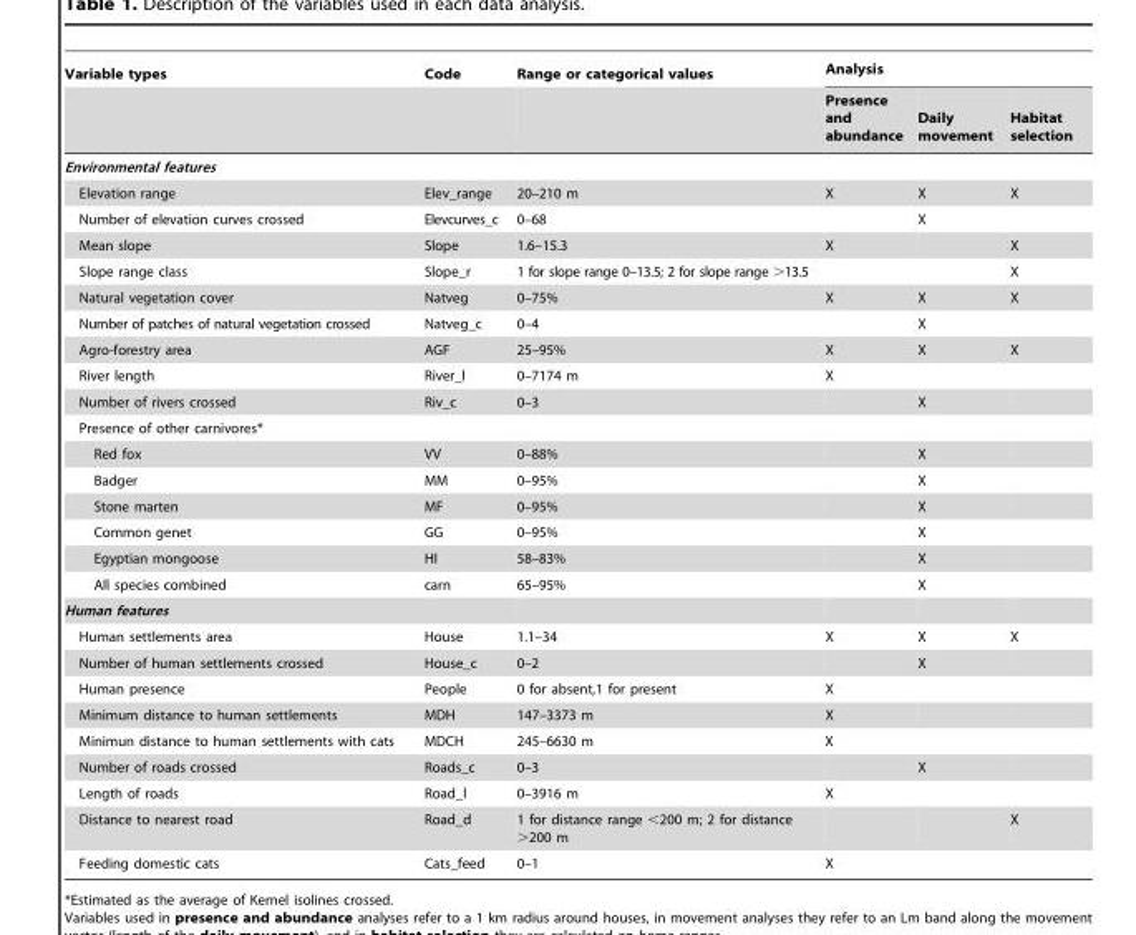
<table><thead><tr><td rowspan="2">Variable types</td><td rowspan="2">Code</td><td rowspan="2">Range or categorical values</td><td colspan="3">Analysis</td></tr><tr><td>Presence and abundance</td><td>Daily movement</td><td>Habitat selection</td></tr></thead><tbody><tr><td colspan="6">Environmental features</td></tr><tr><td>Elevation range</td><td>Elev_range</td><td>20–210 m</td><td>X</td><td>X</td><td>X</td></tr><tr><td>Number of elevation curves crossed</td><td>Elevcurves_c</td><td>0–68</td><td></td><td>X</td><td></td></tr><tr><td>Mean slope</td><td>Slope</td><td>1.6–15.3</td><td>X</td><td></td><td>X</td></tr><tr><td>Slope range class</td><td>Slope_r</td><td>1 for slope range 0–13.5; 2 for slope range &gt;13.5</td><td></td><td></td><td>X</td></tr><tr><td>Natural vegetation cover</td><td>Natveg</td><td>0–75%</td><td>X</td><td>X</td><td>X</td></tr><tr><td>Number of patches of natural vegetation crossed</td><td>Natveg_c</td><td>0–4</td><td></td><td>X</td><td></td></tr><tr><td>Agro-forestry area</td><td>AGF</td><td>25–95%</td><td>X</td><td>X</td><td>X</td></tr><tr><td>River length</td><td>River_l</td><td>0–7174 m</td><td>X</td><td></td><td></td></tr><tr><td>Number of rivers crossed</td><td>Riv_c</td><td>0–3</td><td></td><td>X</td><td></td></tr><tr><td colspan="6">Presence of other carnivores*</td></tr><tr><td>Red fox</td><td>VV</td><td>0–88%</td><td></td><td>X</td><td></td></tr><tr><td>Badger</td><td>MM</td><td>0–95%</td><td></td><td>X</td><td></td></tr><tr><td>Stone marten</td><td>MF</td><td>0–95%</td><td></td><td>X</td><td></td></tr><tr><td>Common genet</td><td>GG</td><td>0–95%</td><td></td><td>X</td><td></td></tr><tr><td>Egyptian mongoose</td><td>HI</td><td>58–83%</td><td></td><td>X</td><td></td></tr><tr><td>All species combined</td><td>carn</td><td>65–95%</td><td></td><td>X</td><td></td></tr><tr><td colspan="6">Human features</td></tr><tr><td>Human settlements area</td><td>House</td><td>1.1–34</td><td>X</td><td>X</td><td>X</td></tr><tr><td>Number of human settlements crossed</td><td>House_c</td><td>0–2</td><td></td><td>X</td><td></td></tr><tr><td>Human presence</td><td>People</td><td>0 for absent,1 for present</td><td>X</td><td></td><td></td></tr><tr><td>Minimum distance to human settlements</td><td>MDH</td><td>147–3373 m</td><td>X</td><td></td><td></td></tr><tr><td>Minimun distance to human settlements with cats</td><td>MDCH</td><td>245–6630 m</td><td>X</td><td></td><td></td></tr><tr><td>Number of roads crossed</td><td>Roads_c</td><td>0–3</td><td></td><td>X</td><td></td></tr><tr><td>Length of roads</td><td>Road_l</td><td>0–3916 m</td><td>X</td><td></td><td></td></tr><tr><td>Distance to nearest road</td><td>Road_d</td><td>1 for distance range &lt;200 m; 2 for distance &gt;200 m</td><td></td><td></td><td>X</td></tr><tr><td>Feeding domestic cats</td><td>Cats_feed</td><td>0–1</td><td>X</td><td></td><td></td></tr></tbody></table>